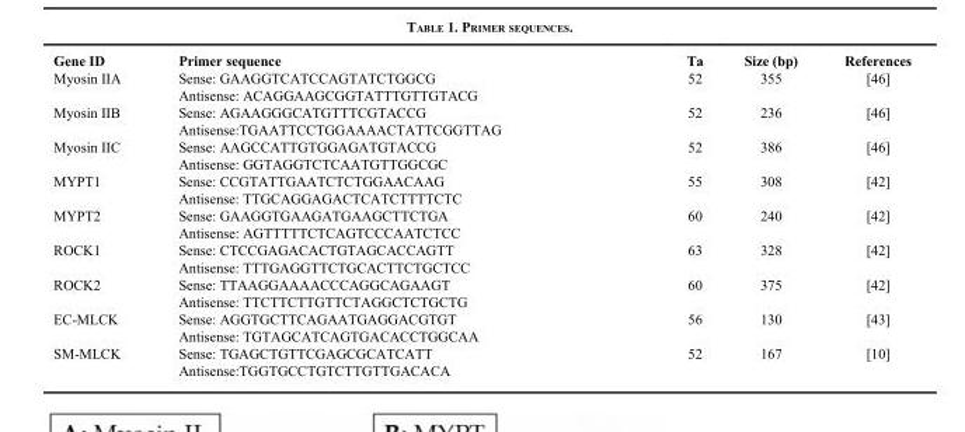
<table><thead><tr><td>Gene ID</td><td>Primer sequence</td><td>Ta</td><td>Size (bp)</td><td>References</td></tr></thead><tbody><tr><td rowspan="2">Myosin IIA</td><td>Sense: GAAGGTCATCCAGTATCTGGCG</td><td>52</td><td>355</td><td>[46]</td></tr><tr><td>Antisense: ACAGGAAGCGGTATTTGTTGTACG</td><td></td><td></td><td></td></tr><tr><td rowspan="2">Myosin IIB</td><td>Sense: AGAAGGGCATGTTTCGTACCG</td><td>52</td><td>236</td><td>[46]</td></tr><tr><td>Antisense:TGAATTCCTGGAAAACTATTCGGTTAG</td><td></td><td></td><td></td></tr><tr><td rowspan="2">Myosin IIC</td><td>Sense: AAGCCATTGTGGAGATGTACCG</td><td>52</td><td>386</td><td>[46]</td></tr><tr><td>Antisense: GGTAGGTCTCAATGTTGGCGC</td><td></td><td></td><td></td></tr><tr><td rowspan="2">MYPT1</td><td>Sense: CCGTATTGAATCTCTGGAACAAG</td><td>55</td><td>308</td><td>[42]</td></tr><tr><td>Antisense: TTGCAGGAGACTCATCTTTTCTC</td><td></td><td></td><td></td></tr><tr><td rowspan="2">MYPT2</td><td>Sense: GAAGGTGAAGATGAAGCTTCTGA</td><td>60</td><td>240</td><td>[42]</td></tr><tr><td>Antisense: AGTTTTTCTCAGTCCCAATCTCC</td><td></td><td></td><td></td></tr><tr><td rowspan="2">ROCK1</td><td>Sense: CTCCGAGACACTGTAGCACCAGTT</td><td>63</td><td>328</td><td>[42]</td></tr><tr><td>Antisense: TTTGAGGTTCTGCACTTCTGCTCC</td><td></td><td></td><td></td></tr><tr><td rowspan="2">ROCK2</td><td>Sense: TTAAGGAAAACCCAGGCAGAAGT</td><td>60</td><td>375</td><td>[42]</td></tr><tr><td>Antisense: TTCTTCTTGTTCTAGGCTCTGCTG</td><td></td><td></td><td></td></tr><tr><td rowspan="2">EC-MLCK</td><td>Sense: AGGTGCTTCAGAATGAGGACGTGT</td><td>56</td><td>130</td><td>[43]</td></tr><tr><td>Antisense: TGTAGCATCAGTGACACCTGGCAA</td><td></td><td></td><td></td></tr><tr><td rowspan="2">SM-MLCK</td><td>Sense: TGAGCTGTTCGAGCGCATCATT</td><td>52</td><td>167</td><td>[10]</td></tr><tr><td>Antisense:TGGTGCCTGTCTTGTTGACACA</td><td></td><td></td><td></td></tr></tbody></table>